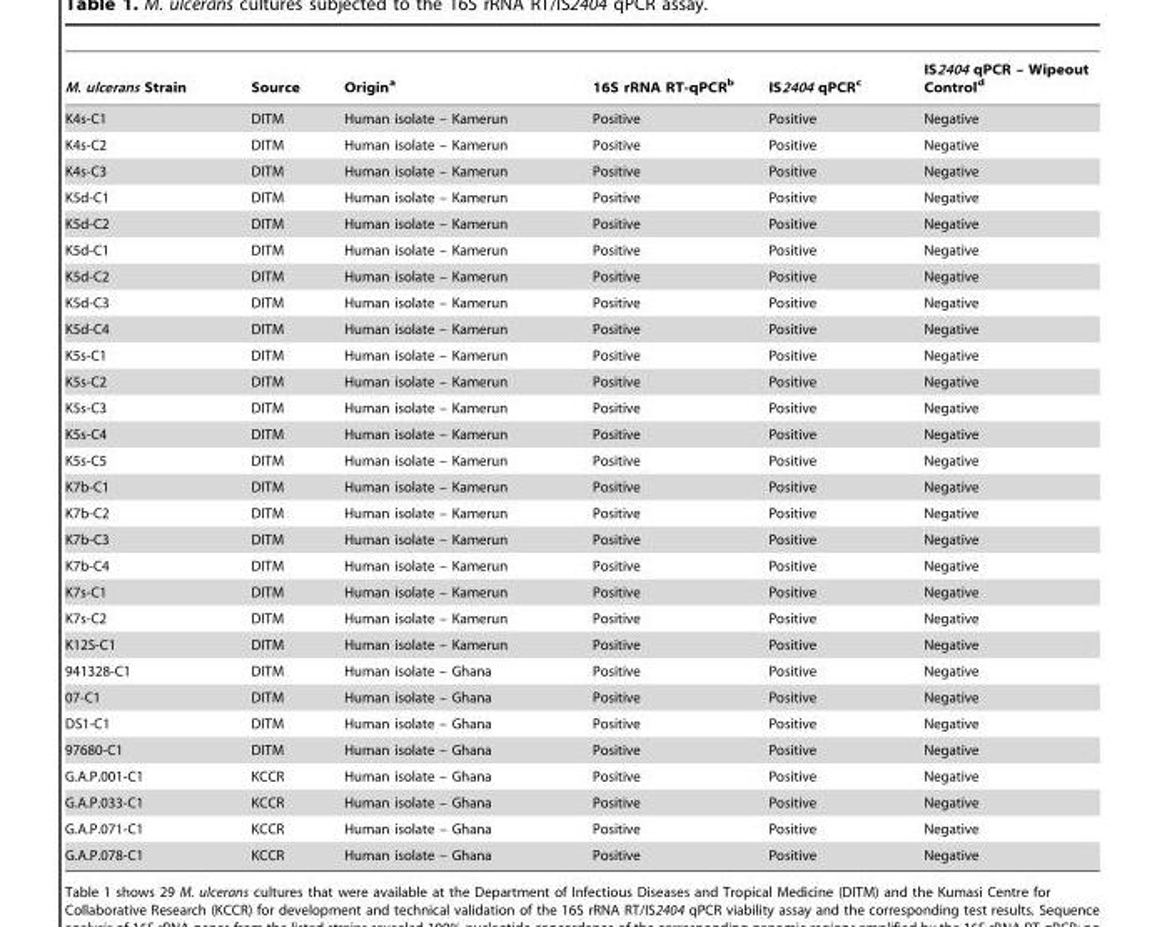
<table><thead><tr><td>M. ulcerans Strain</td><td>Source</td><td>Origin<sup>a</sup></td><td>16S rRNA RT-qPCR<sup>b</sup></td><td>IS2404 qPCR<sup>c</sup></td><td>IS2404 qPCR – Wipeout Control<sup>d</sup></td></tr></thead><tbody><tr><td>K4s-C1</td><td>DITM</td><td>Human isolate – Kamerun</td><td>Positive</td><td>Positive</td><td>Negative</td></tr><tr><td>K4s-C2</td><td>DITM</td><td>Human isolate – Kamerun</td><td>Positive</td><td>Positive</td><td>Negative</td></tr><tr><td>K4s-C3</td><td>DITM</td><td>Human isolate – Kamerun</td><td>Positive</td><td>Positive</td><td>Negative</td></tr><tr><td>K5d-C1</td><td>DITM</td><td>Human isolate – Kamerun</td><td>Positive</td><td>Positive</td><td>Negative</td></tr><tr><td>K5d-C2</td><td>DITM</td><td>Human isolate – Kamerun</td><td>Positive</td><td>Positive</td><td>Negative</td></tr><tr><td>K5d-C1</td><td>DITM</td><td>Human isolate – Kamerun</td><td>Positive</td><td>Positive</td><td>Negative</td></tr><tr><td>K5d-C2</td><td>DITM</td><td>Human isolate – Kamerun</td><td>Positive</td><td>Positive</td><td>Negative</td></tr><tr><td>K5d-C3</td><td>DITM</td><td>Human isolate – Kamerun</td><td>Positive</td><td>Positive</td><td>Negative</td></tr><tr><td>K5d-C4</td><td>DITM</td><td>Human isolate – Kamerun</td><td>Positive</td><td>Positive</td><td>Negative</td></tr><tr><td>K5s-C1</td><td>DITM</td><td>Human isolate – Kamerun</td><td>Positive</td><td>Positive</td><td>Negative</td></tr><tr><td>K5s-C2</td><td>DITM</td><td>Human isolate – Kamerun</td><td>Positive</td><td>Positive</td><td>Negative</td></tr><tr><td>K5s-C3</td><td>DITM</td><td>Human isolate – Kamerun</td><td>Positive</td><td>Positive</td><td>Negative</td></tr><tr><td>K5s-C4</td><td>DITM</td><td>Human isolate – Kamerun</td><td>Positive</td><td>Positive</td><td>Negative</td></tr><tr><td>K5s-C5</td><td>DITM</td><td>Human isolate – Kamerun</td><td>Positive</td><td>Positive</td><td>Negative</td></tr><tr><td>K7b-C1</td><td>DITM</td><td>Human isolate – Kamerun</td><td>Positive</td><td>Positive</td><td>Negative</td></tr><tr><td>K7b-C2</td><td>DITM</td><td>Human isolate – Kamerun</td><td>Positive</td><td>Positive</td><td>Negative</td></tr><tr><td>K7b-C3</td><td>DITM</td><td>Human isolate – Kamerun</td><td>Positive</td><td>Positive</td><td>Negative</td></tr><tr><td>K7b-C4</td><td>DITM</td><td>Human isolate – Kamerun</td><td>Positive</td><td>Positive</td><td>Negative</td></tr><tr><td>K7s-C1</td><td>DITM</td><td>Human isolate – Kamerun</td><td>Positive</td><td>Positive</td><td>Negative</td></tr><tr><td>K7s-C2</td><td>DITM</td><td>Human isolate – Kamerun</td><td>Positive</td><td>Positive</td><td>Negative</td></tr><tr><td>K12S-C1</td><td>DITM</td><td>Human isolate – Kamerun</td><td>Positive</td><td>Positive</td><td>Negative</td></tr><tr><td>941328-C1</td><td>DITM</td><td>Human isolate – Ghana</td><td>Positive</td><td>Positive</td><td>Negative</td></tr><tr><td>07-C1</td><td>DITM</td><td>Human isolate – Ghana</td><td>Positive</td><td>Positive</td><td>Negative</td></tr><tr><td>DS1-C1</td><td>DITM</td><td>Human isolate – Ghana</td><td>Positive</td><td>Positive</td><td>Negative</td></tr><tr><td>97680-C1</td><td>DITM</td><td>Human isolate – Ghana</td><td>Positive</td><td>Positive</td><td>Negative</td></tr><tr><td>G.A.P.001-C1</td><td>KCCR</td><td>Human isolate – Ghana</td><td>Positive</td><td>Positive</td><td>Negative</td></tr><tr><td>G.A.P.033-C1</td><td>KCCR</td><td>Human isolate – Ghana</td><td>Positive</td><td>Positive</td><td>Negative</td></tr><tr><td>G.A.P.071-C1</td><td>KCCR</td><td>Human isolate – Ghana</td><td>Positive</td><td>Positive</td><td>Negative</td></tr><tr><td>G.A.P.078-C1</td><td>KCCR</td><td>Human isolate – Ghana</td><td>Positive</td><td>Positive</td><td>Negative</td></tr></tbody></table>